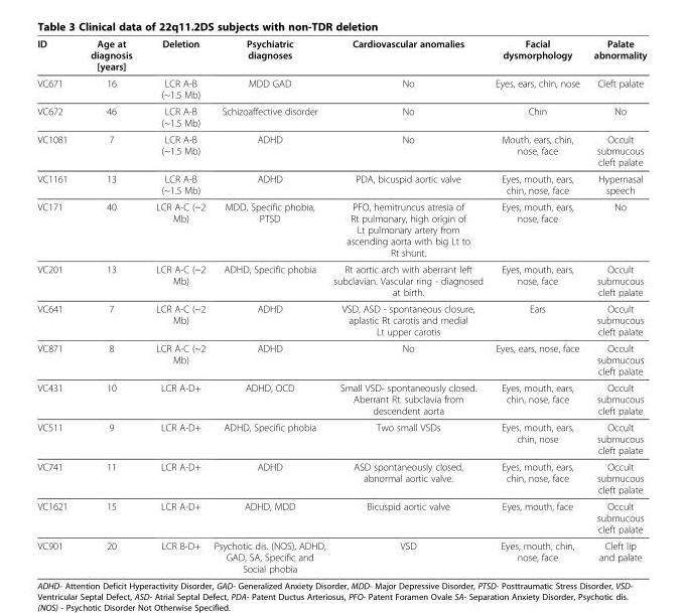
<table><thead><tr><td>ID</td><td>Age at diagnosis [years]</td><td>Deletion</td><td>Psychiatric diagnoses</td><td>Cardiovascular anomalies</td><td>Facial dysmorphology</td><td>Palate abnormality</td></tr></thead><tbody><tr><td>VC671</td><td>16</td><td>LCR A-B (~1.5 Mb)</td><td>MDD GAD</td><td>No</td><td>Eyes, ears, chin, nose</td><td>Cleft palate</td></tr><tr><td>VC672</td><td>46</td><td>LCR A-B (~1.5 Mb)</td><td>Schizoaffective disorder</td><td>No</td><td>Chin</td><td>No</td></tr><tr><td>VC1081</td><td>7</td><td>LCR A-B (~1.5 Mb)</td><td>ADHD</td><td>No</td><td>Mouth, ears, chin, nose, face</td><td>Occult submucous cleft palate</td></tr><tr><td>VC1161</td><td>13</td><td>LCR A-B (~1.5 Mb)</td><td>ADHD</td><td>PDA, bicuspid aortic valve</td><td>Eyes, mouth, ears, chin, nose, face</td><td>Hypernasal speech</td></tr><tr><td>VC171</td><td>40</td><td>LCR A-C (~2 Mb)</td><td>MDD, Specific phobia, PTSD</td><td>PFO, hemitruncus atresia of Rt pulmonary, high origin of Lt pulmonary artery from ascending aorta with big Lt to Rt shunt.</td><td>Eyes, mouth, ears, nose, face</td><td>No</td></tr><tr><td>VC201</td><td>13</td><td>LCR A-C (~2 Mb)</td><td>ADHD, Specific phobia</td><td>Rt aortic arch with aberrant left subclavian. Vascular ring - diagnosed at birth.</td><td>Eyes, mouth, ears, nose, face</td><td>Occult submucous cleft palate</td></tr><tr><td>VC641</td><td>7</td><td>LCR A-C (~2 Mb)</td><td>ADHD</td><td>VSD, ASD - spontaneous closure, aplastic Rt carotis and medial Lt upper carotis</td><td>Ears</td><td>Occult submucous cleft palate</td></tr><tr><td>VC871</td><td>8</td><td>LCR A-C (~2 Mb)</td><td>ADHD</td><td>No</td><td>Eyes, ears, nose, face</td><td>Occult submucous cleft palate</td></tr><tr><td>VC431</td><td>10</td><td>LCR A-D+</td><td>ADHD, OCD</td><td>Small VSD- spontaneously closed. Aberrant Rt. subclavia from descendent aorta</td><td>Eyes, mouth, ears, chin, nose, face</td><td>Occult submucous cleft palate</td></tr><tr><td>VC511</td><td>9</td><td>LCR A-D+</td><td>ADHD, Specific phobia</td><td>Two small VSDs</td><td>Eyes, mouth, ears, chin, nose</td><td>Occult submucous cleft palate</td></tr><tr><td>VC741</td><td>11</td><td>LCR A-D+</td><td>ADHD</td><td>ASD spontaneously closed, abnormal aortic valve.</td><td>Eyes, mouth, ears, chin, nose, face</td><td>Occult submucous cleft palate</td></tr><tr><td>VC1621</td><td>15</td><td>LCR A-D+</td><td>ADHD, MDD</td><td>Bicuspid aortic valve</td><td>Eyes, mouth, face</td><td>Occult submucous cleft palate</td></tr><tr><td>VC901</td><td>20</td><td>LCR B-D+</td><td>Psychotic dis. (NOS), ADHD, GAD, SA, Specific and Social phobia</td><td>VSD</td><td>Eyes, mouth, chin, nose, face</td><td>Cleft lip and palate</td></tr></tbody></table>